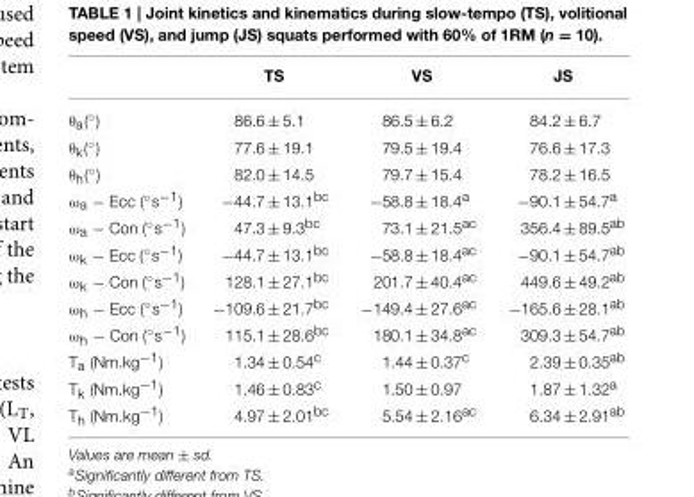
<table><thead><tr><td></td><td>TS</td><td>VS</td><td>JS</td></tr></thead><tbody><tr><td>θa(◦)</td><td>86.6 ± 5.1</td><td>86.5 ± 6.2</td><td>84.2 ± 6.7</td></tr><tr><td>θk(◦)</td><td>77.6 ± 19.1</td><td>79.5 ± 19.4</td><td>76.6 ± 17.3</td></tr><tr><td>θh(◦)</td><td>82.0 ± 14.5</td><td>79.7 ± 15.4</td><td>78.2 ± 16.5</td></tr><tr><td>ωa − Ecc (◦s−1)</td><td>−44.7 ± 13.1<sup>bc</sup></td><td>−58.8 ± 18.4<sup>a</sup></td><td>−90.1 ± 54.7<sup>a</sup></td></tr><tr><td>ωa − Con (◦s−1)</td><td>47.3 ± 9.3<sup>bc</sup></td><td>73.1 ± 21.5<sup>ac</sup></td><td>356.4 ± 89.5<sup>ab</sup></td></tr><tr><td>ωk − Ecc (◦s−1)</td><td>−44.7 ± 13.1<sup>bc</sup></td><td>−58.8 ± 18.4<sup>ac</sup></td><td>−90.1 ± 54.7<sup>ab</sup></td></tr><tr><td>ωk − Con (◦s−1)</td><td>128.1 ± 27.1<sup>bc</sup></td><td>201.7 ± 40.4<sup>ac</sup></td><td>449.6 ± 49.2<sup>ab</sup></td></tr><tr><td>ωh − Ecc (◦s−1)</td><td>−109.6 ± 21.7<sup>bc</sup></td><td>−149.4 ± 27.6<sup>ac</sup></td><td>−165.6 ± 28.1<sup>ab</sup></td></tr><tr><td>ωh − Con (◦s−1)</td><td>115.1 ± 28.6<sup>bc</sup></td><td>180.1 ± 34.8<sup>ac</sup></td><td>309.3 ± 54.7<sup>ab</sup></td></tr><tr><td>T<sub>a</sub> (Nm.kg<sup>−1</sup>)</td><td>1.34 ± 0.54<sup>c</sup></td><td>1.44 ± 0.37<sup>c</sup></td><td>2.39 ± 0.35<sup>ab</sup></td></tr><tr><td>T<sub>k</sub> (Nm.kg<sup>−1</sup>)</td><td>1.46 ± 0.83<sup>c</sup></td><td>1.50 ± 0.97</td><td>1.87 ± 1.32<sup>a</sup></td></tr><tr><td>T<sub>h</sub> (Nm.kg<sup>−1</sup>)</td><td>4.97 ± 2.01<sup>bc</sup></td><td>5.54 ± 2.16<sup>ac</sup></td><td>6.34 ± 2.91<sup>ab</sup></td></tr></tbody></table>